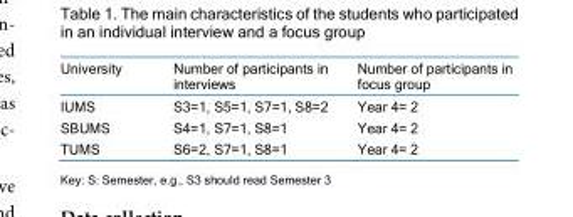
<table><thead><tr><td>University</td><td>Number of participants in interviews</td><td>Number of participants in focus group</td></tr></thead><tbody><tr><td>IUMS</td><td>S3=1, S5=1, S7=1, S8=2</td><td>Year 4= 2</td></tr><tr><td>SBUMS</td><td>S4=1, S7=1, S8=1</td><td>Year 4= 2</td></tr><tr><td>TUMS</td><td>S6=2, S7=1, S8=1</td><td>Year 4= 2</td></tr></tbody></table>